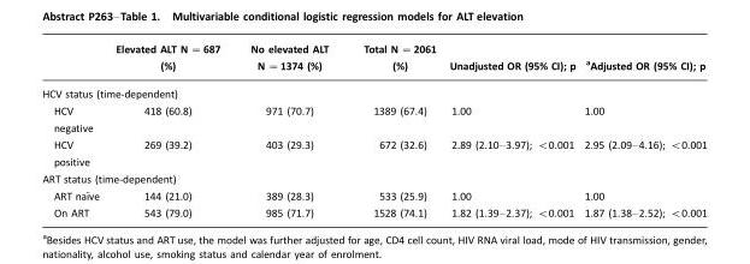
<table><thead><tr><td></td><td>Elevated ALT N =687 (%)</td><td>No elevated ALT N =1374 (%)</td><td>Total N =2061 (%)</td><td>Unadjusted OR (95% CI); p</td><td>aAdjusted OR (95% CI); p</td></tr></thead><tbody><tr><td colspan="6">HCV status (time-dependent)</td></tr><tr><td>HCV negative</td><td>418 (60.8)</td><td>971 (70.7)</td><td>1389 (67.4)</td><td>1.00</td><td>1.00</td></tr><tr><td>HCV positive</td><td>269 (39.2)</td><td>403 (29.3)</td><td>672 (32.6)</td><td>2.89 (2.10–3.97); &lt;0.001</td><td>2.95 (2.09–4.16); &lt;0.001</td></tr><tr><td colspan="6">ART status (time-dependent)</td></tr><tr><td>ART naı¨ve</td><td>144 (21.0)</td><td>389 (28.3)</td><td>533 (25.9)</td><td>1.00</td><td>1.00</td></tr><tr><td>On ART</td><td>543 (79.0)</td><td>985 (71.7)</td><td>1528 (74.1)</td><td>1.82 (1.39–2.37); &lt;0.001</td><td>1.87 (1.38–2.52); &lt;0.001</td></tr></tbody></table>